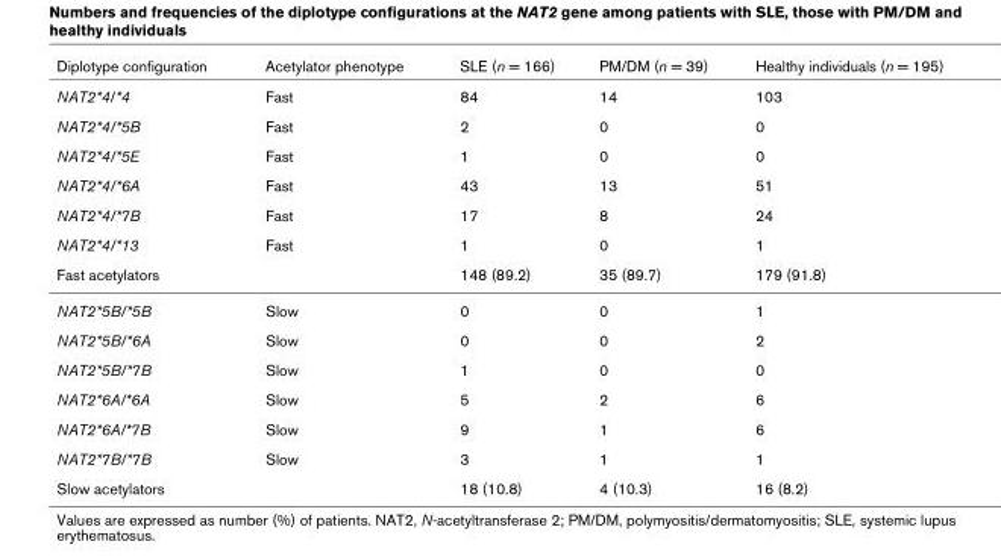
<table><thead><tr><td>Diplotype configuration</td><td>Acetylator phenotype</td><td>SLE (n = 166)</td><td>PM/DM (n = 39)</td><td>Healthy individuals (n = 195)</td></tr></thead><tbody><tr><td>NAT2*4/*4</td><td>Fast</td><td>84</td><td>14</td><td>103</td></tr><tr><td>NAT2*4/*5B</td><td>Fast</td><td>2</td><td>0</td><td>0</td></tr><tr><td>NAT2*4/*5E</td><td>Fast</td><td>1</td><td>0</td><td>0</td></tr><tr><td>NAT2*4/*6A</td><td>Fast</td><td>43</td><td>13</td><td>51</td></tr><tr><td>NAT2*4/*7B</td><td>Fast</td><td>17</td><td>8</td><td>24</td></tr><tr><td>NAT2*4/*13</td><td>Fast</td><td>1</td><td>0</td><td>1</td></tr><tr><td colspan="2">Fast acetylators</td><td>148 (89.2)</td><td>35 (89.7)</td><td>179 (91.8)</td></tr><tr><td>NAT2*5B/*5B</td><td>Slow</td><td>0</td><td>0</td><td>1</td></tr><tr><td>NAT2*5B/*6A</td><td>Slow</td><td>0</td><td>0</td><td>2</td></tr><tr><td>NAT2*5B/*7B</td><td>Slow</td><td>1</td><td>0</td><td>0</td></tr><tr><td>NAT2*6A/*6A</td><td>Slow</td><td>5</td><td>2</td><td>6</td></tr><tr><td>NAT2*6A/*7B</td><td>Slow</td><td>9</td><td>1</td><td>6</td></tr><tr><td>NAT2*7B/*7B</td><td>Slow</td><td>3</td><td>1</td><td>1</td></tr><tr><td colspan="2">Slow acetylators</td><td>18 (10.8)</td><td>4 (10.3)</td><td>16 (8.2)</td></tr></tbody></table>